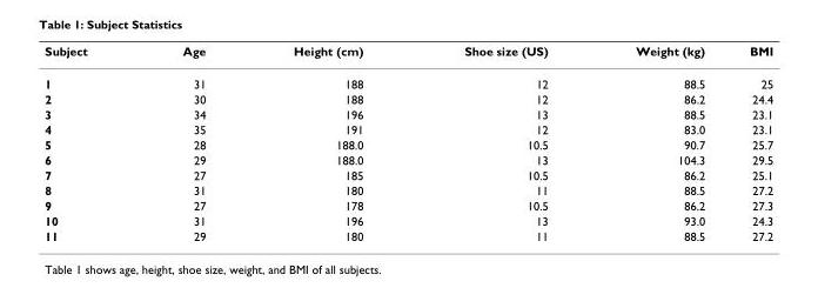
<table><thead><tr><td>Subject</td><td>Age</td><td>Height (cm)</td><td>Shoe size (US)</td><td>Weight (kg)</td><td>BMI</td></tr></thead><tbody><tr><td>1</td><td>31</td><td>188</td><td>12</td><td>88.5</td><td>25</td></tr><tr><td>2</td><td>30</td><td>188</td><td>12</td><td>86.2</td><td>24.4</td></tr><tr><td>3</td><td>34</td><td>196</td><td>13</td><td>88.5</td><td>23.1</td></tr><tr><td>4</td><td>35</td><td>191</td><td>12</td><td>83.0</td><td>23.1</td></tr><tr><td>5</td><td>28</td><td>188.0</td><td>10.5</td><td>90.7</td><td>25.7</td></tr><tr><td>6</td><td>29</td><td>188.0</td><td>13</td><td>104.3</td><td>29.5</td></tr><tr><td>7</td><td>27</td><td>185</td><td>10.5</td><td>86.2</td><td>25.1</td></tr><tr><td>8</td><td>31</td><td>180</td><td>11</td><td>88.5</td><td>27.2</td></tr><tr><td>9</td><td>27</td><td>178</td><td>10.5</td><td>86.2</td><td>27.3</td></tr><tr><td>10</td><td>31</td><td>196</td><td>13</td><td>93.0</td><td>24.3</td></tr><tr><td>11</td><td>29</td><td>180</td><td>11</td><td>88.5</td><td>27.2</td></tr></tbody></table>